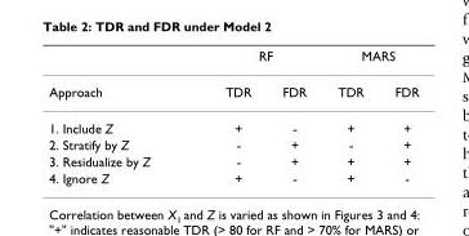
<table><thead><tr><td rowspan="2">Approach</td><td colspan="2">RF</td><td colspan="2">MARS</td></tr><tr><td>TDR</td><td>FDR</td><td>TDR</td><td>FDR</td></tr></thead><tbody><tr><td>1. Include Z</td><td>+</td><td>-</td><td>+</td><td>+</td></tr><tr><td>2. Stratify by Z</td><td>-</td><td>+</td><td>-</td><td>+</td></tr><tr><td>3. Residualize by Z</td><td>-</td><td>+</td><td>+</td><td>+</td></tr><tr><td>4. Ignore Z</td><td>+</td><td>-</td><td>+</td><td>-</td></tr></tbody></table>